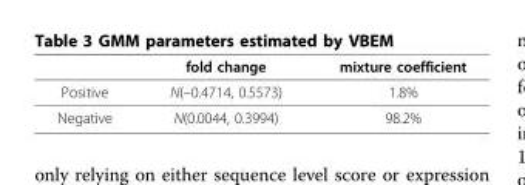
<table><thead><tr><td></td><td>fold change</td><td>mixture coefficient</td></tr></thead><tbody><tr><td>Positive</td><td>N(–0.4714, 0.5573)</td><td>1.8%</td></tr><tr><td>Negative</td><td>N(0.0044, 0.3994)</td><td>98.2%</td></tr></tbody></table>